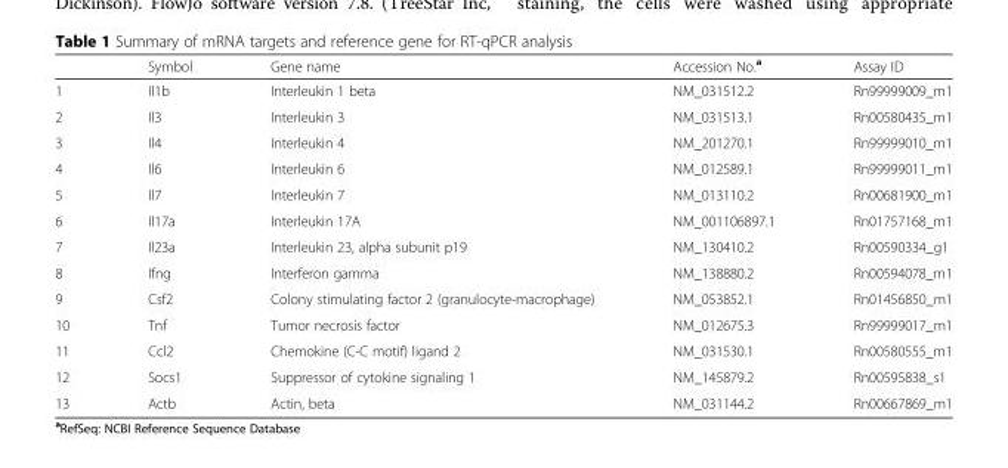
<table><thead><tr><td></td><td>Symbol</td><td>Gene name</td><td>Accession No.<sup>a</sup></td><td>Assay ID</td></tr></thead><tbody><tr><td>1</td><td>Il1b</td><td>Interleukin 1 beta</td><td>NM_031512.2</td><td>Rn99999009_m1</td></tr><tr><td>2</td><td>Il3</td><td>Interleukin 3</td><td>NM_031513.1</td><td>Rn00580435_m1</td></tr><tr><td>3</td><td>Il4</td><td>Interleukin 4</td><td>NM_201270.1</td><td>Rn99999010_m1</td></tr><tr><td>4</td><td>Il6</td><td>Interleukin 6</td><td>NM_012589.1</td><td>Rn99999011_m1</td></tr><tr><td>5</td><td>Il7</td><td>Interleukin 7</td><td>NM_013110.2</td><td>Rn00681900_m1</td></tr><tr><td>6</td><td>Il17a</td><td>Interleukin 17A</td><td>NM_001106897.1</td><td>Rn01757168_m1</td></tr><tr><td>7</td><td>Il23a</td><td>Interleukin 23, alpha subunit p19</td><td>NM_130410.2</td><td>Rn00590334_g1</td></tr><tr><td>8</td><td>Ifng</td><td>Interferon gamma</td><td>NM_138880.2</td><td>Rn00594078_m1</td></tr><tr><td>9</td><td>Csf2</td><td>Colony stimulating factor 2 (granulocyte-macrophage)</td><td>NM_053852.1</td><td>Rn01456850_m1</td></tr><tr><td>10</td><td>Tnf</td><td>Tumor necrosis factor</td><td>NM_012675.3</td><td>Rn99999017_m1</td></tr><tr><td>11</td><td>Ccl2</td><td>Chemokine (C-C motif) ligand 2</td><td>NM_031530.1</td><td>Rn00580555_m1</td></tr><tr><td>12</td><td>Socs1</td><td>Suppressor of cytokine signaling 1</td><td>NM_145879.2</td><td>Rn00595838_s1</td></tr><tr><td>13</td><td>Actb</td><td>Actin, beta</td><td>NM_031144.2</td><td>Rn00667869_m1</td></tr></tbody></table>